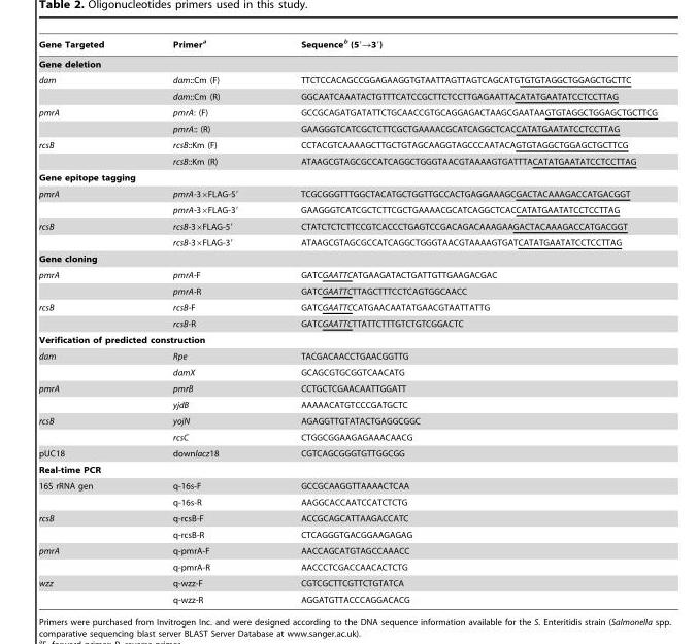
<table><thead><tr><td>Gene Targeted</td><td>Primer<sup>a</sup></td><td>Sequence<sup>b</sup> (5′→3′)</td></tr></thead><tbody><tr><td colspan="3">Gene deletion</td></tr><tr><td rowspan="2">dam</td><td>dam::Cm (F)</td><td>TTCTCCACAGCCGGAGAAGGTGTAATTAGTTAGTCAGCATGTGTGTAGGCTGGAGCTGCTTC</td></tr><tr><td>dam::Cm (R)</td><td>GGCAATCAAATACTGTTTCATCCGCTTCTCCTTGAGAATTACATATGAATATCCTCCTTAG</td></tr><tr><td rowspan="2">pmrA</td><td>pmrA: (F)</td><td>GCCGCAGATGATATTCTGCAACCGTGCAGGAGACTAAGCGAATAAGTGTAGGCTGGAGCTGCTTCG</td></tr><tr><td>pmrA:: (R)</td><td>GAAGGGTCATCGCTCTTCGCTGAAAACGCATCAGGCTCACCATATGAATATCCTCCTTAG</td></tr><tr><td rowspan="2">rcsB</td><td>rcsB::Km (F)</td><td>CCTACGTCAAAAGCTTGCTGTAGCAAGGTAGCCCAATACAGTGTAGGCTGGAGCTGCTTCG</td></tr><tr><td>rcsB::Km (R)</td><td>ATAAGCGTAGCGCCATCAGGCTGGGTAACGTAAAAGTGATTTACATATGAATATCCTCCTTAG</td></tr><tr><td colspan="3">Gene epitope tagging</td></tr><tr><td rowspan="2">pmrA</td><td>pmrA-3×FLAG-5′</td><td>TCGCGGGTTTGGCTACATGCTGGTTGCCACTGAGGAAAGCGACTACAAAGACCATGACGGT</td></tr><tr><td>pmrA-3×FLAG-3′</td><td>GAAGGGTCATCGCTCTTCGCTGAAAACGCATCAGGCTCACCATATGAATATCCTCCTTAG</td></tr><tr><td rowspan="2">rcsB</td><td>rcsB-3×FLAG-5′</td><td>CTATCTCTCTTCCGTCACCCTGAGTCCGACAGACAAAGAAGACTACAAAGACCATGACGGT</td></tr><tr><td>rcsB-3×FLAG-3′</td><td>ATAAGCGTAGCGCCATCAGGCTGGGTAACGTAAAAGTGATCATATGAATATCCTCCTTAG</td></tr><tr><td colspan="3">Gene cloning</td></tr><tr><td rowspan="2">pmrA</td><td>pmrA-F</td><td>GATCGAATTCATGAAGATACTGATTGTTGAAGACGAC</td></tr><tr><td>pmrA-R</td><td>GATCGAATTCTTAGCTTTCCTCAGTGGCAACC</td></tr><tr><td rowspan="2">rcsB</td><td>rcsB-F</td><td>GATCGAATTCCATGAACAATATGAACGTAATTATTG</td></tr><tr><td>rcsB-R</td><td>GATCGAATTCTTATTCTTTGTCTGTCGGACTC</td></tr><tr><td colspan="3">Verification of predicted construction</td></tr><tr><td rowspan="2">dam</td><td>Rpe</td><td>TACGACAACCTGAACGGTTG</td></tr><tr><td>damX</td><td>GCAGCGTGCGGTCAACATG</td></tr><tr><td rowspan="2">pmrA</td><td>pmrB</td><td>CCTGCTCGAACAATTGGATT</td></tr><tr><td>yjdB</td><td>AAAAACATGTCCCGATGCTC</td></tr><tr><td rowspan="2">rcsB</td><td>yojN</td><td>AGAGGTTGTATACTGAGGCGGC</td></tr><tr><td>rcsC</td><td>CTGGCGGAAGAGAAACAACG</td></tr><tr><td>pUC18</td><td>downlacz18</td><td>CGTCAGCGGGTGTTGGCGG</td></tr><tr><td colspan="3">Real-time PCR</td></tr><tr><td rowspan="2">16S rRNA gen</td><td>q-16s-F</td><td>GCCGCAAGGTTAAAACTCAA</td></tr><tr><td>q-16s-R</td><td>AAGGCACCAATCCATCTCTG</td></tr><tr><td rowspan="2">rcsB</td><td>q-rcsB-F</td><td>ACCGCAGCATTAAGACCATC</td></tr><tr><td>q-rcsB-R</td><td>CTCAGGGTGACGGAAGAGAG</td></tr><tr><td rowspan="2">pmrA</td><td>q-pmrA-F</td><td>AACCAGCATGTAGCCAAACC</td></tr><tr><td>q-pmrA-R</td><td>AACCCTCGACCAACACTCTG</td></tr><tr><td rowspan="2">wzz</td><td>q-wzz-F</td><td>CGTCGCTTCGTTCTGTATCA</td></tr><tr><td>q-wzz-R</td><td>AGGATGTTACCCAGGACACG</td></tr></tbody></table>